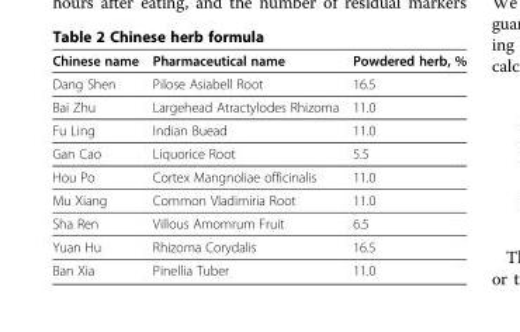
<table><thead><tr><td>Chinese name</td><td>Pharmaceutical name</td><td>Powdered herb, %</td></tr></thead><tbody><tr><td>Dang Shen</td><td>Pilose Asiabell Root</td><td>16.5</td></tr><tr><td>Bai Zhu</td><td>Largehead Atractylodes Rhizoma</td><td>11.0</td></tr><tr><td>Fu Ling</td><td>Indian Buead</td><td>11.0</td></tr><tr><td>Gan Cao</td><td>Liquorice Root</td><td>5.5</td></tr><tr><td>Hou Po</td><td>Cortex Mangnoliae officinalis</td><td>11.0</td></tr><tr><td>Mu Xiang</td><td>Common Vladimiria Root</td><td>11.0</td></tr><tr><td>Sha Ren</td><td>Villous Amomrum Fruit</td><td>6.5</td></tr><tr><td>Yuan Hu</td><td>Rhizoma Corydalis</td><td>16.5</td></tr><tr><td>Ban Xia</td><td>Pinellia Tuber</td><td>11.0</td></tr></tbody></table>